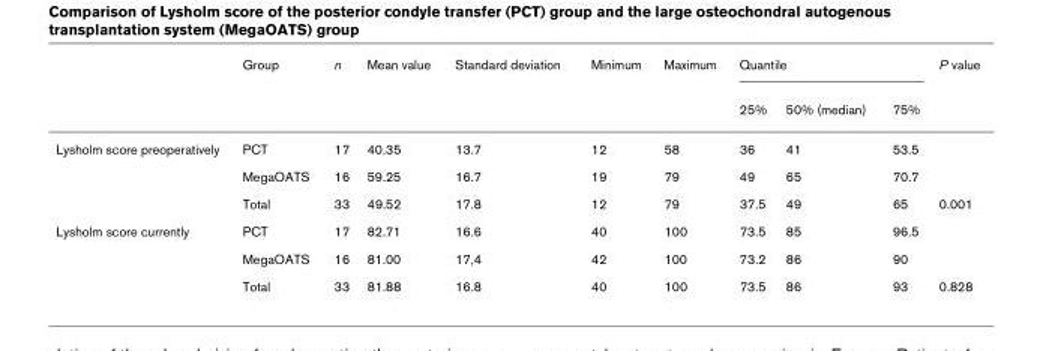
<table><thead><tr><td rowspan="2"></td><td rowspan="2">Group</td><td rowspan="2">n</td><td rowspan="2">Mean value</td><td rowspan="2">Standard deviation</td><td rowspan="2">Minimum</td><td rowspan="2">Maximum</td><td colspan="3">Quantile</td><td rowspan="2">P value</td></tr><tr><td>25%</td><td>50% (median)</td><td>75%</td></tr></thead><tbody><tr><td rowspan="3">Lysholm score preoperatively</td><td>PCT</td><td>17</td><td>40.35</td><td>13.7</td><td>12</td><td>58</td><td>36</td><td>41</td><td>53.5</td><td></td></tr><tr><td>MegaOATS</td><td>16</td><td>59.25</td><td>16.7</td><td>19</td><td>79</td><td>49</td><td>65</td><td>70.7</td><td></td></tr><tr><td>Total</td><td>33</td><td>49.52</td><td>17.8</td><td>12</td><td>79</td><td>37.5</td><td>49</td><td>65</td><td>0.001</td></tr><tr><td rowspan="3">Lysholm score currently</td><td>PCT</td><td>17</td><td>82.71</td><td>16.6</td><td>40</td><td>100</td><td>73.5</td><td>85</td><td>96.5</td><td></td></tr><tr><td>MegaOATS</td><td>16</td><td>81.00</td><td>17,4</td><td>42</td><td>100</td><td>73.2</td><td>86</td><td>90</td><td></td></tr><tr><td>Total</td><td>33</td><td>81.88</td><td>16.8</td><td>40</td><td>100</td><td>73.5</td><td>86</td><td>93</td><td>0.828</td></tr></tbody></table>